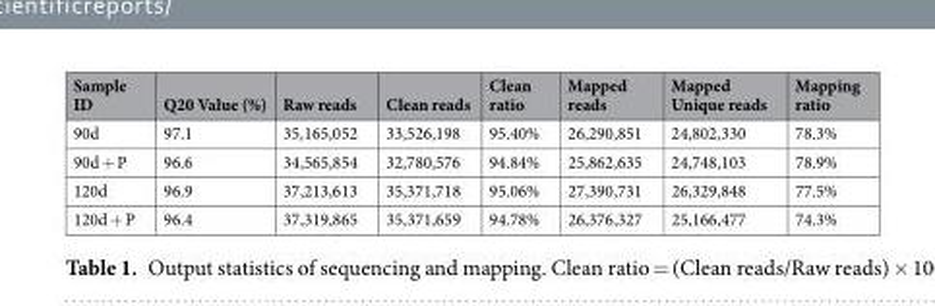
<table><thead><tr><td>Sample ID</td><td>Q20 Value (%)</td><td>Raw reads</td><td>Clean reads</td><td>Clean ratio</td><td>Mapped reads</td><td>Mapped Unique reads</td><td>Mapping ratio</td></tr></thead><tbody><tr><td>90d</td><td>97.1</td><td>35,165,052</td><td>33,526,198</td><td>95.40%</td><td>26,290,851</td><td>24,802,330</td><td>78.3%</td></tr><tr><td>90d + P</td><td>96.6</td><td>34,565,854</td><td>32,780,576</td><td>94.84%</td><td>25,862,635</td><td>24,748,103</td><td>78.9%</td></tr><tr><td>120d</td><td>96.9</td><td>37,213,613</td><td>35,371,718</td><td>95.06%</td><td>27,390,731</td><td>26,329,848</td><td>77.5%</td></tr><tr><td>120d + P</td><td>96.4</td><td>37,319,865</td><td>35,371,659</td><td>94.78%</td><td>26,376,327</td><td>25,166,477</td><td>74.3%</td></tr></tbody></table>